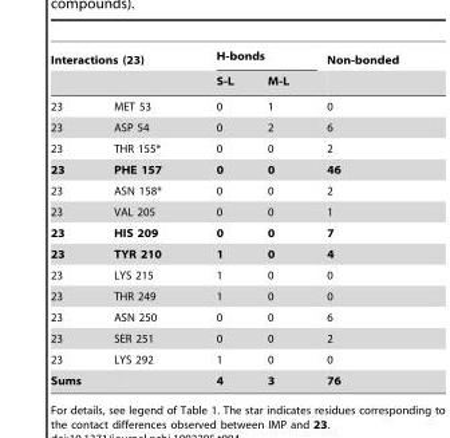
<table><thead><tr><td colspan="2">Interactions (23)</td><td colspan="2">H-bonds</td><td rowspan="2">Non-bonded</td></tr><tr><td></td><td></td><td>S-L</td><td>M-L</td></tr></thead><tbody><tr><td>23</td><td>MET 53</td><td>0</td><td>1</td><td>0</td></tr><tr><td>23</td><td>ASP 54</td><td>0</td><td>2</td><td>6</td></tr><tr><td>23</td><td>THR 155*</td><td>0</td><td>0</td><td>2</td></tr><tr><td>23</td><td>PHE 157</td><td>0</td><td>0</td><td>46</td></tr><tr><td>23</td><td>ASN 158*</td><td>0</td><td>0</td><td>2</td></tr><tr><td>23</td><td>VAL 205</td><td>0</td><td>0</td><td>1</td></tr><tr><td>23</td><td>HIS 209</td><td>0</td><td>0</td><td>7</td></tr><tr><td>23</td><td>TYR 210</td><td>1</td><td>0</td><td>4</td></tr><tr><td>23</td><td>LYS 215</td><td>1</td><td>0</td><td>0</td></tr><tr><td>23</td><td>THR 249</td><td>1</td><td>0</td><td>0</td></tr><tr><td>23</td><td>ASN 250</td><td>0</td><td>0</td><td>6</td></tr><tr><td>23</td><td>SER 251</td><td>0</td><td>0</td><td>2</td></tr><tr><td>23</td><td>LYS 292</td><td>1</td><td>0</td><td>0</td></tr><tr><td>Sums</td><td></td><td>4</td><td>3</td><td>76</td></tr></tbody></table>